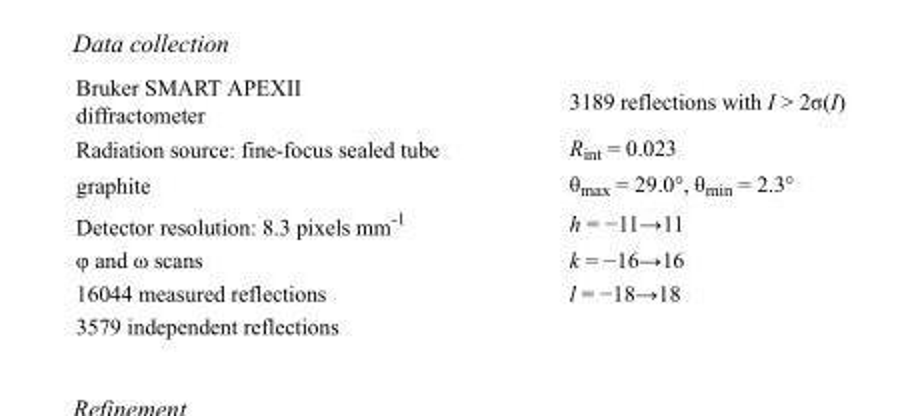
<table><tbody><tr><td>Bruker SMART APEXII diffractometer</td><td>3189 reflections with I &gt; 2σ(I)</td></tr><tr><td>Radiation source: fine-focus sealed tube</td><td>R<sub>int</sub> = 0.023</td></tr><tr><td>graphite</td><td>θ<sub>max</sub> = 29.0°, θ<sub>min</sub> = 2.3°</td></tr><tr><td>Detector resolution: 8.3 pixels mm<sup>-1</sup></td><td>h = −11→11</td></tr><tr><td>φ and ω scans</td><td>k = −16→16</td></tr><tr><td>16044 measured reflections</td><td>l = −18→18</td></tr><tr><td>3579 independent reflections</td><td></td></tr></tbody></table>